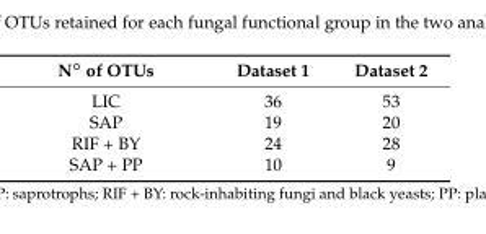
<table><thead><tr><td>N◦ of OTUs</td><td>Dataset 1</td><td>Dataset 2</td></tr></thead><tbody><tr><td>LIC</td><td>36</td><td>53</td></tr><tr><td>SAP</td><td>19</td><td>20</td></tr><tr><td>RIF + BY</td><td>24</td><td>28</td></tr><tr><td>SAP + PP</td><td>10</td><td>9</td></tr></tbody></table>